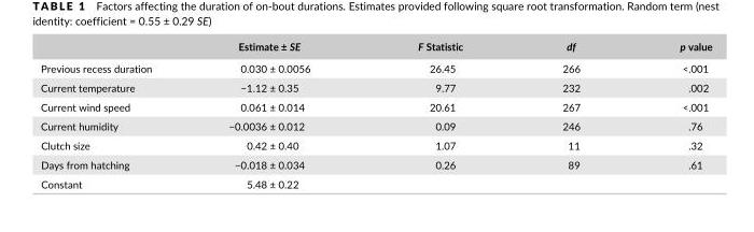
<table><thead><tr><td></td><td>Estimate ± SE</td><td>F Statistic</td><td>df</td><td>p value</td></tr></thead><tbody><tr><td>Previous recess duration</td><td>0.030 ± 0.0056</td><td>26.45</td><td>266</td><td>&lt;.001</td></tr><tr><td>Current temperature</td><td>−1.12 ± 0.35</td><td>9.77</td><td>232</td><td>.002</td></tr><tr><td>Current wind speed</td><td>0.061 ± 0.014</td><td>20.61</td><td>267</td><td>&lt;.001</td></tr><tr><td>Current humidity</td><td>−0.0036 ± 0.012</td><td>0.09</td><td>246</td><td>.76</td></tr><tr><td>Clutch size</td><td>0.42 ± 0.40</td><td>1.07</td><td>11</td><td>.32</td></tr><tr><td>Days from hatching</td><td>−0.018 ± 0.034</td><td>0.26</td><td>89</td><td>.61</td></tr><tr><td>Constant</td><td>5.48 ± 0.22</td><td></td><td></td><td></td></tr></tbody></table>